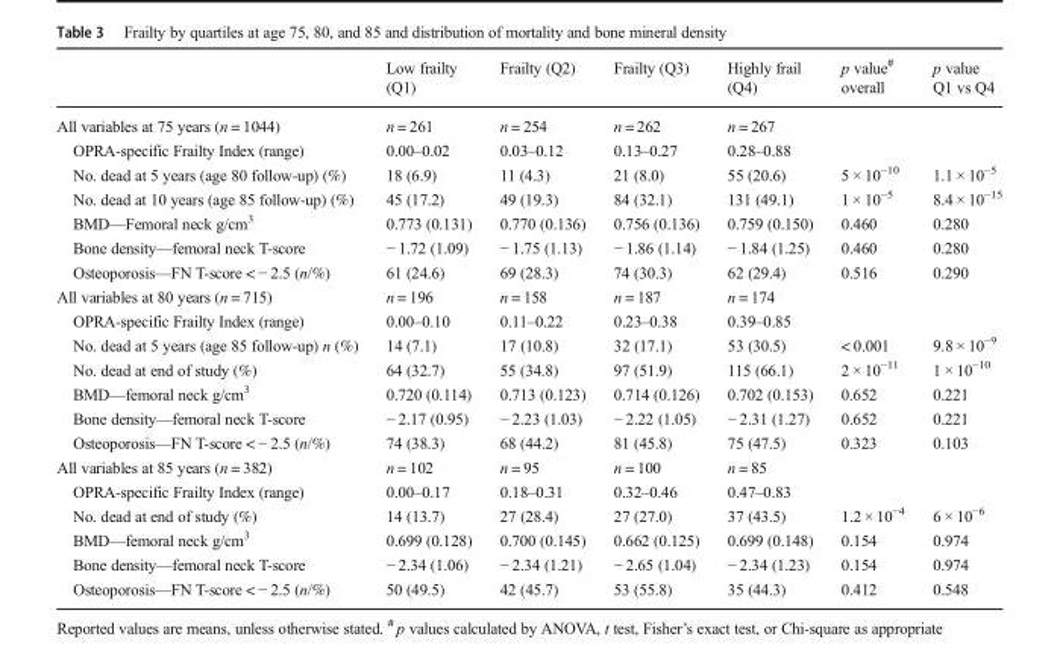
<table><thead><tr><td></td><td>Low frailty (Q1)</td><td>Frailty (Q2)</td><td>Frailty (Q3)</td><td>Highly frail (Q4)</td><td>p value<sup>#</sup> overall</td><td>p value Q1 vs Q4</td></tr></thead><tbody><tr><td>All variables at 75 years (n = 1044)</td><td>n = 261</td><td>n = 254</td><td>n = 262</td><td>n = 267</td><td></td><td></td></tr><tr><td>OPRA-specific Frailty Index (range)</td><td>0.00–0.02</td><td>0.03–0.12</td><td>0.13–0.27</td><td>0.28–0.88</td><td></td><td></td></tr><tr><td>No. dead at 5 years (age 80 follow-up) (%)</td><td>18 (6.9)</td><td>11 (4.3)</td><td>21 (8.0)</td><td>55 (20.6)</td><td>5 × 10<sup>−10</sup></td><td>1.1 × 10<sup>−5</sup></td></tr><tr><td>No. dead at 10 years (age 85 follow-up) (%)</td><td>45 (17.2)</td><td>49 (19.3)</td><td>84 (32.1)</td><td>131 (49.1)</td><td>1 × 10<sup>−5</sup></td><td>8.4 × 10<sup>−15</sup></td></tr><tr><td>BMD—Femoral neck g/cm<sup>3</sup></td><td>0.773 (0.131)</td><td>0.770 (0.136)</td><td>0.756 (0.136)</td><td>0.759 (0.150)</td><td>0.460</td><td>0.280</td></tr><tr><td>Bone density—femoral neck T-score</td><td>− 1.72 (1.09)</td><td>− 1.75 (1.13)</td><td>− 1.86 (1.14)</td><td>− 1.84 (1.25)</td><td>0.460</td><td>0.280</td></tr><tr><td>Osteoporosis—FN T-score &lt; − 2.5 (n/%)</td><td>61 (24.6)</td><td>69 (28.3)</td><td>74 (30.3)</td><td>62 (29.4)</td><td>0.516</td><td>0.290</td></tr><tr><td>All variables at 80 years (n = 715)</td><td>n = 196</td><td>n = 158</td><td>n = 187</td><td>n = 174</td><td></td><td></td></tr><tr><td>OPRA-specific Frailty Index (range)</td><td>0.00–0.10</td><td>0.11–0.22</td><td>0.23–0.38</td><td>0.39–0.85</td><td></td><td></td></tr><tr><td>No. dead at 5 years (age 85 follow-up) n (%)</td><td>14 (7.1)</td><td>17 (10.8)</td><td>32 (17.1)</td><td>53 (30.5)</td><td>&lt; 0.001</td><td>9.8 × 10<sup>−9</sup></td></tr><tr><td>No. dead at end of study (%)</td><td>64 (32.7)</td><td>55 (34.8)</td><td>97 (51.9)</td><td>115 (66.1)</td><td>2 × 10<sup>−11</sup></td><td>1 × 10<sup>−10</sup></td></tr><tr><td>BMD—femoral neck g/cm<sup>3</sup></td><td>0.720 (0.114)</td><td>0.713 (0.123)</td><td>0.714 (0.126)</td><td>0.702 (0.153)</td><td>0.652</td><td>0.221</td></tr><tr><td>Bone density—femoral neck T-score</td><td>− 2.17 (0.95)</td><td>− 2.23 (1.03)</td><td>− 2.22 (1.05)</td><td>− 2.31 (1.27)</td><td>0.652</td><td>0.221</td></tr><tr><td>Osteoporosis—FN T-score &lt; − 2.5 (n/%)</td><td>74 (38.3)</td><td>68 (44.2)</td><td>81 (45.8)</td><td>75 (47.5)</td><td>0.323</td><td>0.103</td></tr><tr><td>All variables at 85 years (n = 382)</td><td>n = 102</td><td>n = 95</td><td>n = 100</td><td>n = 85</td><td></td><td></td></tr><tr><td>OPRA-specific Frailty Index (range)</td><td>0.00–0.17</td><td>0.18–0.31</td><td>0.32–0.46</td><td>0.47–0.83</td><td></td><td></td></tr><tr><td>No. dead at end of study (%)</td><td>14 (13.7)</td><td>27 (28.4)</td><td>27 (27.0)</td><td>37 (43.5)</td><td>1.2 × 10<sup>−4</sup></td><td>6 × 10<sup>−6</sup></td></tr><tr><td>BMD—femoral neck g/cm<sup>3</sup></td><td>0.699 (0.128)</td><td>0.700 (0.145)</td><td>0.662 (0.125)</td><td>0.699 (0.148)</td><td>0.154</td><td>0.974</td></tr><tr><td>Bone density—femoral neck T-score</td><td>− 2.34 (1.06)</td><td>− 2.34 (1.21)</td><td>− 2.65 (1.04)</td><td>− 2.34 (1.23)</td><td>0.154</td><td>0.974</td></tr><tr><td>Osteoporosis—FN T-score &lt; − 2.5 (n/%)</td><td>50 (49.5)</td><td>42 (45.7)</td><td>53 (55.8)</td><td>35 (44.3)</td><td>0.412</td><td>0.548</td></tr></tbody></table>